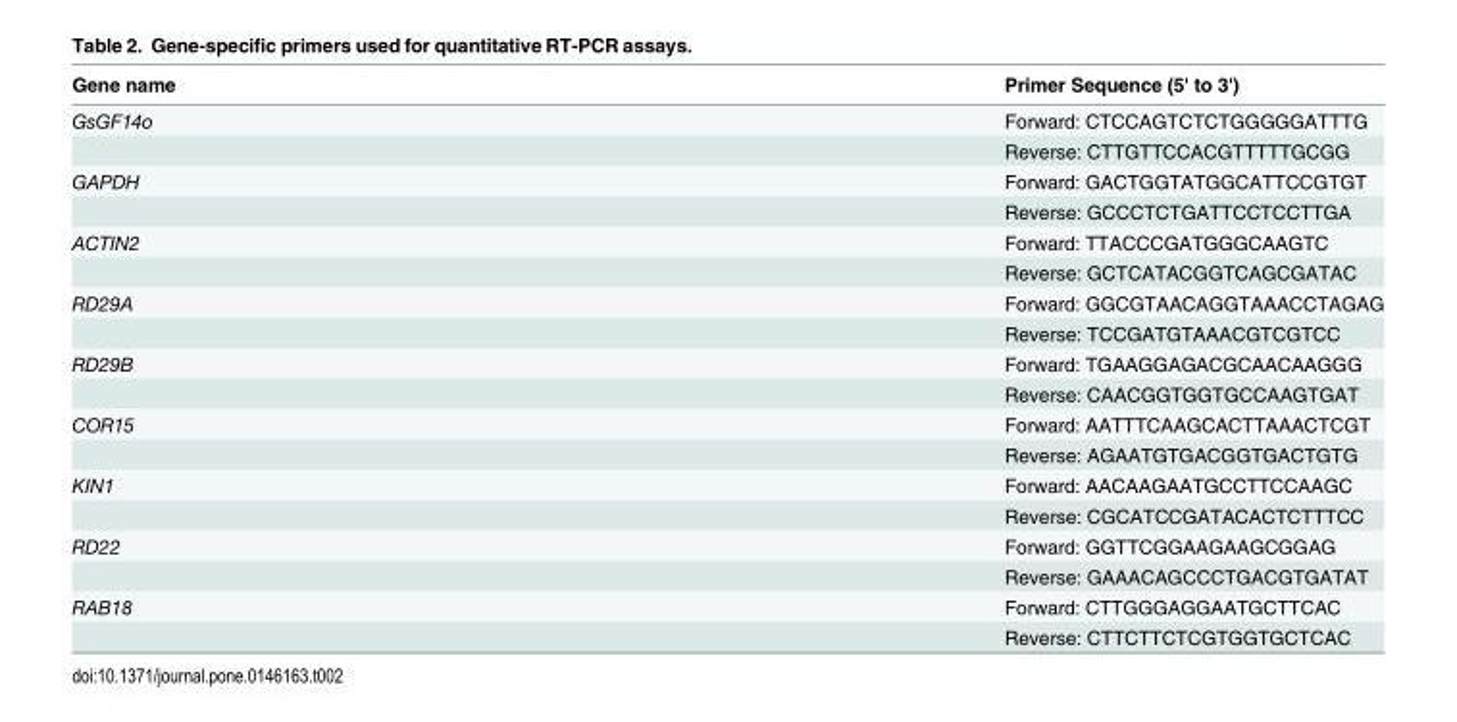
<table><thead><tr><td>Gene name</td><td>Primer Sequence (5&#x27; to 3&#x27;)</td></tr></thead><tbody><tr><td rowspan="2">GsGF14o</td><td>Forward: CTCCAGTCTCTGGGGGATTTG</td></tr><tr><td>Reverse: CTTGTTCCACGTTTTTGCGG</td></tr><tr><td rowspan="2">GAPDH</td><td>Forward: GACTGGTATGGCATTCCGTGT</td></tr><tr><td>Reverse: GCCCTCTGATTCCTCCTTGA</td></tr><tr><td rowspan="2">ACTIN2</td><td>Forward: TTACCCGATGGGCAAGTC</td></tr><tr><td>Reverse: GCTCATACGGTCAGCGATAC</td></tr><tr><td rowspan="2">RD29A</td><td>Forward: GGCGTAACAGGTAAACCTAGAG</td></tr><tr><td>Reverse: TCCGATGTAAACGTCGTCC</td></tr><tr><td rowspan="2">RD29B</td><td>Forward: TGAAGGAGACGCAACAAGGG</td></tr><tr><td>Reverse: CAACGGTGGTGCCAAGTGAT</td></tr><tr><td rowspan="2">COR15</td><td>Forward: AATTTCAAGCACTTAAACTCGT</td></tr><tr><td>Reverse: AGAATGTGACGGTGACTGTG</td></tr><tr><td rowspan="2">KIN1</td><td>Forward: AACAAGAATGCCTTCCAAGC</td></tr><tr><td>Reverse: CGCATCCGATACACTCTTTCC</td></tr><tr><td rowspan="2">RD22</td><td>Forward: GGTTCGGAAGAAGCGGAG</td></tr><tr><td>Reverse: GAAACAGCCCTGACGTGATAT</td></tr><tr><td rowspan="2">RAB18</td><td>Forward: CTTGGGAGGAATGCTTCAC</td></tr><tr><td>Reverse: CTTCTTCTCGTGGTGCTCAC</td></tr></tbody></table>